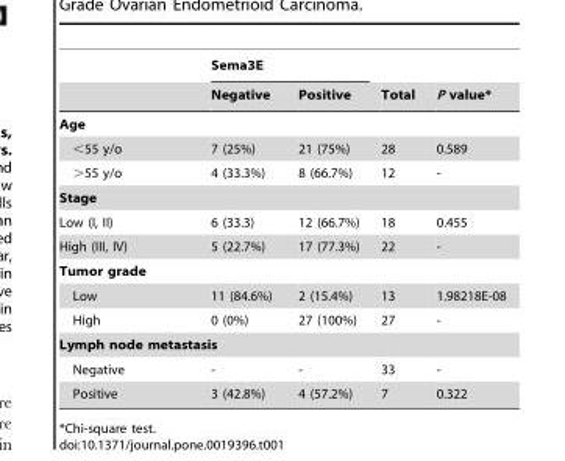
<table><thead><tr><td rowspan="2"></td><td colspan="2">Sema3E</td><td rowspan="2">Total</td><td rowspan="2">P value*</td></tr><tr><td>Negative</td><td>Positive</td></tr></thead><tbody><tr><td colspan="5">Age</td></tr><tr><td>&lt;55 y/o</td><td>7 (25%)</td><td>21 (75%)</td><td>28</td><td>0.589</td></tr><tr><td>&gt;55 y/o</td><td>4 (33.3%)</td><td>8 (66.7%)</td><td>12</td><td>-</td></tr><tr><td colspan="5">Stage</td></tr><tr><td>Low (I, II)</td><td>6 (33.3)</td><td>12 (66.7%)</td><td>18</td><td>0.455</td></tr><tr><td>High (III, IV)</td><td>5 (22.7%)</td><td>17 (77.3%)</td><td>22</td><td>-</td></tr><tr><td colspan="5">Tumor grade</td></tr><tr><td>Low</td><td>11 (84.6%)</td><td>2 (15.4%)</td><td>13</td><td>1.98218E-08</td></tr><tr><td>High</td><td>0 (0%)</td><td>27 (100%)</td><td>27</td><td>-</td></tr><tr><td colspan="5">Lymph node metastasis</td></tr><tr><td>Negative</td><td>-</td><td>-</td><td>33</td><td>-</td></tr><tr><td>Positive</td><td>3 (42.8%)</td><td>4 (57.2%)</td><td>7</td><td>0.322</td></tr></tbody></table>